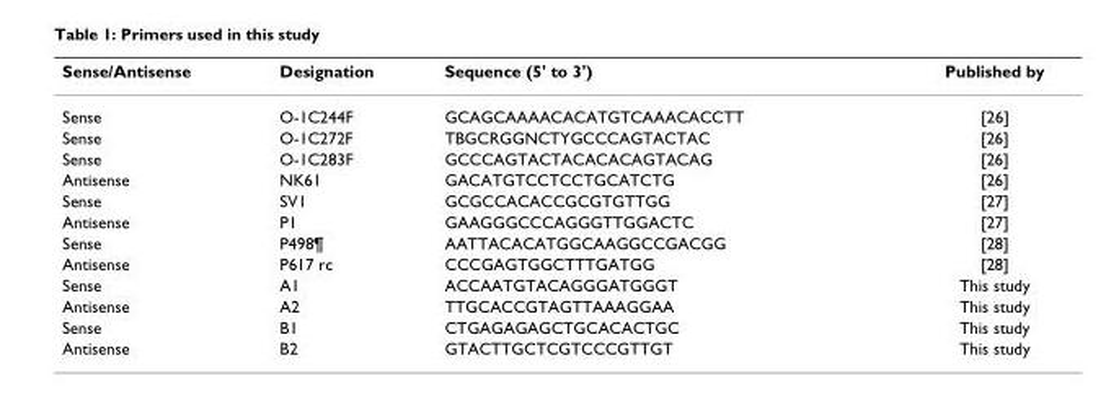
<table><thead><tr><td>Sense/Antisense</td><td>Designation</td><td>Sequence (5&#x27; to 3&#x27;)</td><td>Published by</td></tr></thead><tbody><tr><td>Sense</td><td>O-1C244F</td><td>GCAGCAAAACACATGTCAAACACCTT</td><td>[26]</td></tr><tr><td>Sense</td><td>O-1C272F</td><td>TBGCRGGNCTYGCCCAGTACTAC</td><td>[26]</td></tr><tr><td>Sense</td><td>O-1C283F</td><td>GCCCAGTACTACACACAGTACAG</td><td>[26]</td></tr><tr><td>Antisense</td><td>NK61</td><td>GACATGTCCTCCTGCATCTG</td><td>[26]</td></tr><tr><td>Sense</td><td>SV1</td><td>GCGCCACACCGCGTGTTGG</td><td>[27]</td></tr><tr><td>Antisense</td><td>P1</td><td>GAAGGGCCCAGGGTTGGACTC</td><td>[27]</td></tr><tr><td>Sense</td><td>P498¶</td><td>AATTACACATGGCAAGGCCGACGG</td><td>[28]</td></tr><tr><td>Antisense</td><td>P617 rc</td><td>CCCGAGTGGCTTTGATGG</td><td>[28]</td></tr><tr><td>Sense</td><td>A1</td><td>ACCAATGTACAGGGATGGGT</td><td>This study</td></tr><tr><td>Antisense</td><td>A2</td><td>TTGCACCGTAGTTAAAGGAA</td><td>This study</td></tr><tr><td>Sense</td><td>B1</td><td>CTGAGAGAGCTGCACACTGC</td><td>This study</td></tr><tr><td>Antisense</td><td>B2</td><td>GTACTTGCTCGTCCCGTTGT</td><td>This study</td></tr></tbody></table>